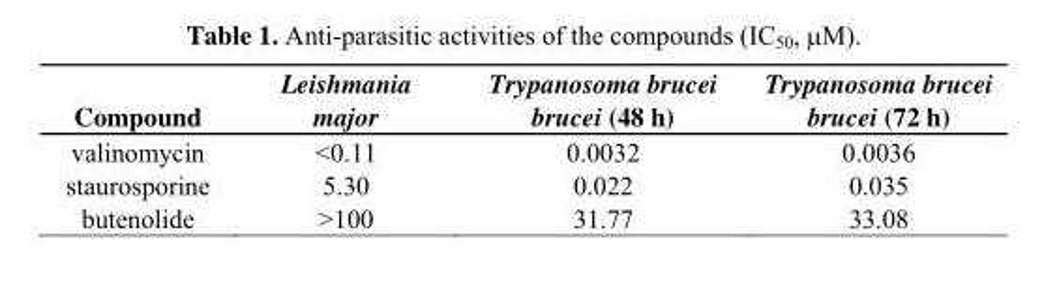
<table><thead><tr><td>Compound</td><td>Leishmania major</td><td>Trypanosoma brucei brucei (48 h)</td><td>Trypanosoma brucei brucei (72 h)</td></tr></thead><tbody><tr><td>valinomycin</td><td>&lt;0.11</td><td>0.0032</td><td>0.0036</td></tr><tr><td>staurosporine</td><td>5.30</td><td>0.022</td><td>0.035</td></tr><tr><td>butenolide</td><td>&gt;100</td><td>31.77</td><td>33.08</td></tr></tbody></table>